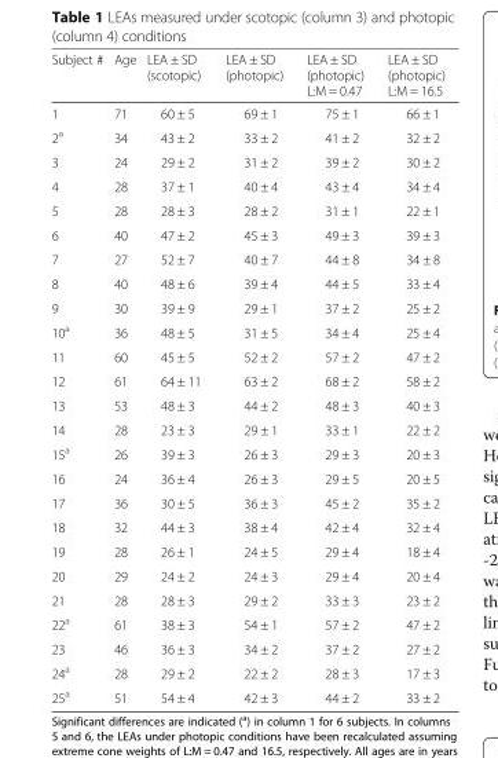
<table><thead><tr><td>Subject #</td><td>Age</td><td>LEA ± SD (scotopic)</td><td>LEA ± SD (photopic)</td><td>LEA ± SD (photopic) L:M = 0.47</td><td>LEA ± SD (photopic) L:M = 16.5</td></tr></thead><tbody><tr><td>1</td><td>71</td><td>60 ± 5</td><td>69 ± 1</td><td>75 ± 1</td><td>66 ± 1</td></tr><tr><td>2<sup>a</sup></td><td>34</td><td>43 ± 2</td><td>33 ± 2</td><td>41 ± 2</td><td>32 ± 2</td></tr><tr><td>3</td><td>24</td><td>29 ± 2</td><td>31 ± 2</td><td>39 ± 2</td><td>30 ± 2</td></tr><tr><td>4</td><td>28</td><td>37 ± 1</td><td>40 ± 4</td><td>43 ± 4</td><td>34 ± 4</td></tr><tr><td>5</td><td>28</td><td>28 ± 3</td><td>28 ± 2</td><td>31 ± 1</td><td>22 ± 1</td></tr><tr><td>6</td><td>40</td><td>47 ± 2</td><td>45 ± 3</td><td>49 ± 3</td><td>39 ± 3</td></tr><tr><td>7</td><td>27</td><td>52 ± 7</td><td>40 ± 7</td><td>44 ± 8</td><td>34 ± 8</td></tr><tr><td>8</td><td>40</td><td>48 ± 6</td><td>39 ± 4</td><td>44 ± 5</td><td>33 ± 4</td></tr><tr><td>9</td><td>30</td><td>39 ± 9</td><td>29 ± 1</td><td>37 ± 2</td><td>25 ± 2</td></tr><tr><td>10<sup>a</sup></td><td>36</td><td>48 ± 5</td><td>31 ± 5</td><td>34 ± 4</td><td>25 ± 4</td></tr><tr><td>11</td><td>60</td><td>45 ± 5</td><td>52 ± 2</td><td>57 ± 2</td><td>47 ± 2</td></tr><tr><td>12</td><td>61</td><td>64 ± 11</td><td>63 ± 2</td><td>68 ± 2</td><td>58 ± 2</td></tr><tr><td>13</td><td>53</td><td>48 ± 3</td><td>44 ± 2</td><td>48 ± 3</td><td>40 ± 3</td></tr><tr><td>14</td><td>28</td><td>23 ± 3</td><td>29 ± 1</td><td>33 ± 1</td><td>22 ± 2</td></tr><tr><td>15<sup>a</sup></td><td>26</td><td>39 ± 3</td><td>26 ± 3</td><td>29 ± 3</td><td>20 ± 3</td></tr><tr><td>16</td><td>24</td><td>36 ± 4</td><td>26 ± 3</td><td>29 ± 5</td><td>20 ± 5</td></tr><tr><td>17</td><td>36</td><td>30 ± 5</td><td>36 ± 3</td><td>45 ± 2</td><td>35 ± 2</td></tr><tr><td>18</td><td>32</td><td>44 ± 3</td><td>38 ± 4</td><td>42 ± 4</td><td>32 ± 4</td></tr><tr><td>19</td><td>28</td><td>26 ± 1</td><td>24 ± 5</td><td>29 ± 4</td><td>18 ± 4</td></tr><tr><td>20</td><td>29</td><td>24 ± 2</td><td>24 ± 3</td><td>29 ± 4</td><td>20 ± 4</td></tr><tr><td>21</td><td>28</td><td>28 ± 3</td><td>29 ± 2</td><td>33 ± 3</td><td>23 ± 2</td></tr><tr><td>22<sup>a</sup></td><td>61</td><td>38 ± 3</td><td>54 ± 1</td><td>57 ± 2</td><td>47 ± 2</td></tr><tr><td>23</td><td>46</td><td>36 ± 3</td><td>34 ± 2</td><td>37 ± 2</td><td>27 ± 2</td></tr><tr><td>24<sup>a</sup></td><td>28</td><td>29 ± 2</td><td>22 ± 2</td><td>28 ± 3</td><td>17 ± 3</td></tr><tr><td>25<sup>a</sup></td><td>51</td><td>54 ± 4</td><td>42 ± 3</td><td>44 ± 2</td><td>33 ± 2</td></tr></tbody></table>